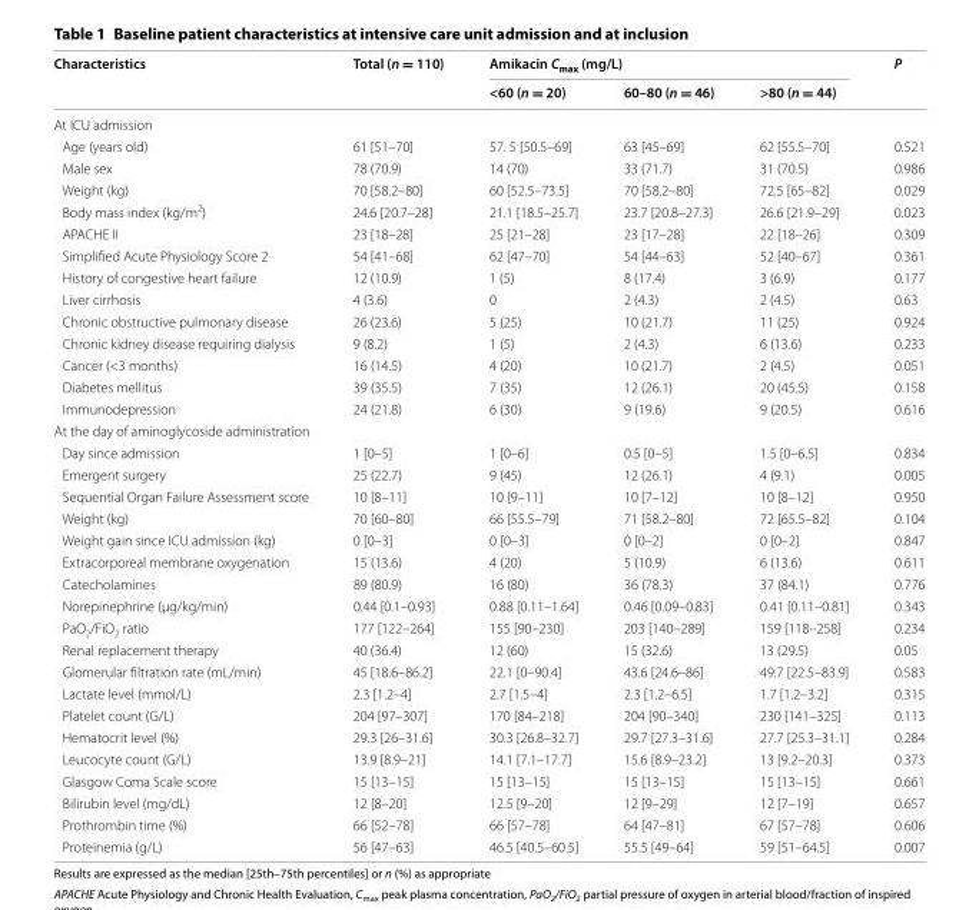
<table><thead><tr><td rowspan="2">Characteristics</td><td rowspan="2">Total (n = 110)</td><td colspan="3">Amikacin C<sub>max</sub> (mg/L)</td><td rowspan="2">P</td></tr><tr><td>&lt;60 (n = 20)</td><td>60–80 (n = 46)</td><td>&gt;80 (n = 44)</td></tr></thead><tbody><tr><td colspan="6">At ICU admission</td></tr><tr><td>Age (years old)</td><td>61 [51–70]</td><td>57. 5 [50.5–69]</td><td>63 [45–69]</td><td>62 [55.5–70]</td><td>0.521</td></tr><tr><td>Male sex</td><td>78 (70.9)</td><td>14 (70)</td><td>33 (71.7)</td><td>31 (70.5)</td><td>0.986</td></tr><tr><td>Weight (kg)</td><td>70 [58.2–80]</td><td>60 [52.5–73.5]</td><td>70 [58.2–80]</td><td>72.5 [65–82]</td><td>0.029</td></tr><tr><td>Body mass index (kg/m<sup>2</sup>)</td><td>24.6 [20.7–28]</td><td>21.1 [18.5–25.7]</td><td>23.7 [20.8–27.3]</td><td>26.6 [21.9–29]</td><td>0.023</td></tr><tr><td>APACHE II</td><td>23 [18–28]</td><td>25 [21–28]</td><td>23 [17–28]</td><td>22 [18–26]</td><td>0.309</td></tr><tr><td>Simplified Acute Physiology Score 2</td><td>54 [41–68]</td><td>62 [47–70]</td><td>54 [44–63]</td><td>52 [40–67]</td><td>0.361</td></tr><tr><td>History of congestive heart failure</td><td>12 (10.9)</td><td>1 (5)</td><td>8 (17.4)</td><td>3 (6.9)</td><td>0.177</td></tr><tr><td>Liver cirrhosis</td><td>4 (3.6)</td><td>0</td><td>2 (4.3)</td><td>2 (4.5)</td><td>0.63</td></tr><tr><td>Chronic obstructive pulmonary disease</td><td>26 (23.6)</td><td>5 (25)</td><td>10 (21.7)</td><td>11 (25)</td><td>0.924</td></tr><tr><td>Chronic kidney disease requiring dialysis</td><td>9 (8.2)</td><td>1 (5)</td><td>2 (4.3)</td><td>6 (13.6)</td><td>0.233</td></tr><tr><td>Cancer (&lt;3 months)</td><td>16 (14.5)</td><td>4 (20)</td><td>10 (21.7)</td><td>2 (4.5)</td><td>0.051</td></tr><tr><td>Diabetes mellitus</td><td>39 (35.5)</td><td>7 (35)</td><td>12 (26.1)</td><td>20 (45.5)</td><td>0.158</td></tr><tr><td>Immunodepression</td><td>24 (21.8)</td><td>6 (30)</td><td>9 (19.6)</td><td>9 (20.5)</td><td>0.616</td></tr><tr><td colspan="6">At the day of aminoglycoside administration</td></tr><tr><td>Day since admission</td><td>1 [0–5]</td><td>1 [0–6]</td><td>0.5 [0–5]</td><td>1.5 [0–6.5]</td><td>0.834</td></tr><tr><td>Emergent surgery</td><td>25 (22.7)</td><td>9 (45)</td><td>12 (26.1)</td><td>4 (9.1)</td><td>0.005</td></tr><tr><td>Sequential Organ Failure Assessment score</td><td>10 [8–11]</td><td>10 [9–11]</td><td>10 [7–12]</td><td>10 [8–12]</td><td>0.950</td></tr><tr><td>Weight (kg)</td><td>70 [60–80]</td><td>66 [55.5–79]</td><td>71 [58.2–80]</td><td>72 [65.5–82]</td><td>0.104</td></tr><tr><td>Weight gain since ICU admission (kg)</td><td>0 [0–3]</td><td>0 [0–3]</td><td>0 [0–2]</td><td>0 [0–2]</td><td>0.847</td></tr><tr><td>Extracorporeal membrane oxygenation</td><td>15 (13.6)</td><td>4 (20)</td><td>5 (10.9)</td><td>6 (13.6)</td><td>0.611</td></tr><tr><td>Catecholamines</td><td>89 (80.9)</td><td>16 (80)</td><td>36 (78.3)</td><td>37 (84.1)</td><td>0.776</td></tr><tr><td>Norepinephrine (µg/kg/min)</td><td>0.44 [0.1–0.93]</td><td>0.88 [0.11–1.64]</td><td>0.46 [0.09–0.83]</td><td>0.41 [0.11–0.81]</td><td>0.343</td></tr><tr><td>PaO<sub>2</sub>/FiO<sub>2</sub> ratio</td><td>177 [122–264]</td><td>155 [90–230]</td><td>203 [140–289]</td><td>159 [118–258]</td><td>0.234</td></tr><tr><td>Renal replacement therapy</td><td>40 (36.4)</td><td>12 (60)</td><td>15 (32.6)</td><td>13 (29.5)</td><td>0.05</td></tr><tr><td>Glomerular filtration rate (mL/min)</td><td>45 [18.6–86.2]</td><td>22.1 [0–90.4]</td><td>43.6 [24.6–86]</td><td>49.7 [22.5–83.9]</td><td>0.583</td></tr><tr><td>Lactate level (mmol/L)</td><td>2.3 [1.2–4]</td><td>2.7 [1.5–4]</td><td>2.3 [1.2–6.5]</td><td>1.7 [1.2–3.2]</td><td>0.315</td></tr><tr><td>Platelet count (G/L)</td><td>204 [97–307]</td><td>170 [84–218]</td><td>204 [90–340]</td><td>230 [141–325]</td><td>0.113</td></tr><tr><td>Hematocrit level (%)</td><td>29.3 [26–31.6]</td><td>30.3 [26.8–32.7]</td><td>29.7 [27.3–31.6]</td><td>27.7 [25.3–31.1]</td><td>0.284</td></tr><tr><td>Leucocyte count (G/L)</td><td>13.9 [8.9–21]</td><td>14.1 [7.1–17.7]</td><td>15.6 [8.9–23.2]</td><td>13 [9.2–20.3]</td><td>0.373</td></tr><tr><td>Glasgow Coma Scale score</td><td>15 [13–15]</td><td>15 [13–15]</td><td>15 [13–15]</td><td>15 [13–15]</td><td>0.661</td></tr><tr><td>Bilirubin level (mg/dL)</td><td>12 [8–20]</td><td>12.5 [9–20]</td><td>12 [9–29]</td><td>12 [7–19]</td><td>0.657</td></tr><tr><td>Prothrombin time (%)</td><td>66 [52–78]</td><td>66 [57–78]</td><td>64 [47–81]</td><td>67 [57–78]</td><td>0.606</td></tr><tr><td>Proteinemia (g/L)</td><td>56 [47–63]</td><td>46.5 [40.5–60.5]</td><td>55.5 [49–64]</td><td>59 [51–64.5]</td><td>0.007</td></tr></tbody></table>